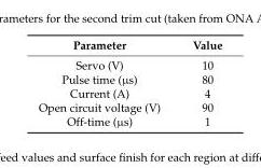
<table><thead><tr><td>Parameter</td><td>Value</td></tr></thead><tbody><tr><td>Servo (V)</td><td>10</td></tr><tr><td>Pulse time (µs)</td><td>80</td></tr><tr><td>Current (A)</td><td>4</td></tr><tr><td>Open circuit voltage (V)</td><td>90</td></tr><tr><td>Off-time (µs)</td><td>1</td></tr></tbody></table>